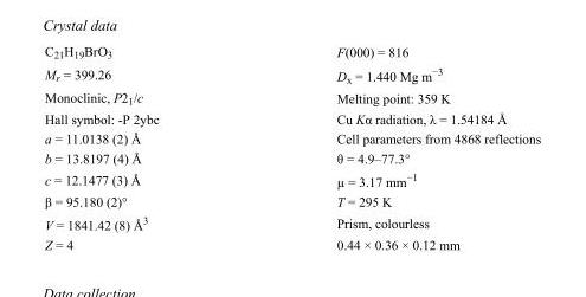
<table><tbody><tr><td>C<sub>21</sub>H<sub>19</sub>BrO<sub>3</sub></td><td>F(000) = 816</td></tr><tr><td>M<sub>r</sub> = 399.26</td><td>D<sub>x</sub> = 1.440 Mg m<sup>−3</sup></td></tr><tr><td>Monoclinic, P2<sub>1</sub>/c</td><td>Melting point: 359 K</td></tr><tr><td>Hall symbol: -P 2ybc</td><td>Cu Kα radiation, λ = 1.54184 Å</td></tr><tr><td>a = 11.0138 (2) Å</td><td>Cell parameters from 4868 reflections</td></tr><tr><td>b = 13.8197 (4) Å</td><td>θ = 4.9–77.3°</td></tr><tr><td>c = 12.1477 (3) Å</td><td>µ = 3.17 mm<sup>−1</sup></td></tr><tr><td>β = 95.180 (2)°</td><td>T = 295 K</td></tr><tr><td>V = 1841.42 (8) Å<sup>3</sup></td><td>Prism, colourless</td></tr><tr><td>Z = 4</td><td>0.44 × 0.36 × 0.12 mm</td></tr></tbody></table>